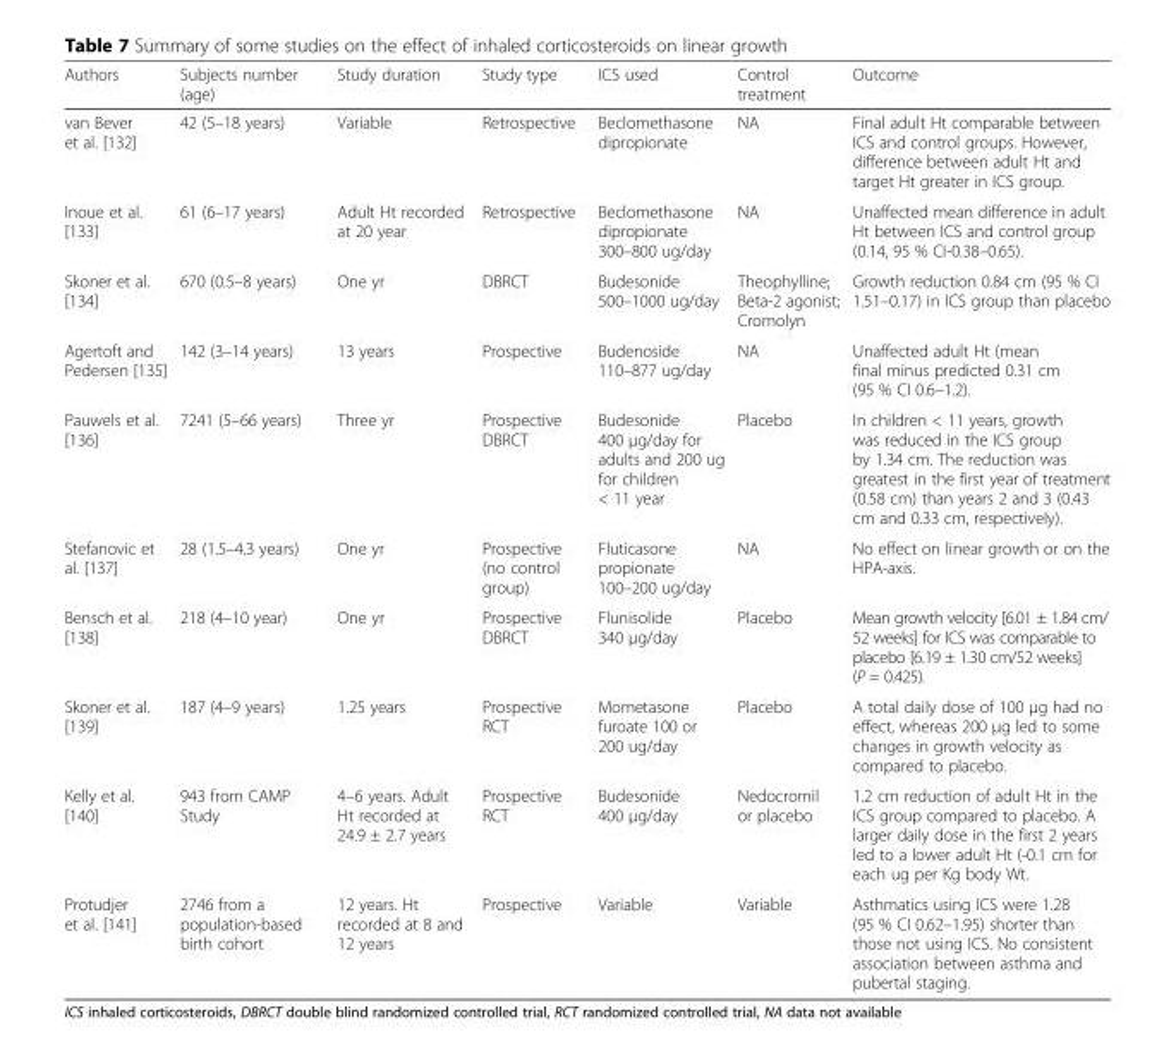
<table><thead><tr><td>Authors</td><td>Subjects number (age)</td><td>Study duration</td><td>Study type</td><td>ICS used</td><td>Control treatment</td><td>Outcome</td></tr></thead><tbody><tr><td>van Bever et al. [132]</td><td>42 (5–18 years)</td><td>Variable</td><td>Retrospective</td><td>Beclomethasone dipropionate</td><td>NA</td><td>Final adult Ht comparable between ICS and control groups. However, difference between adult Ht and target Ht greater in ICS group.</td></tr><tr><td>Inoue et al. [133]</td><td>61 (6–17 years)</td><td>Adult Ht recorded at 20 year</td><td>Retrospective</td><td>Beclomethasone dipropionate 300–800 ug/day</td><td>NA</td><td>Unaffected mean difference in adult Ht between ICS and control group (0.14, 95 % CI-0.38–0.65).</td></tr><tr><td>Skoner et al. [134]</td><td>670 (0.5–8 years)</td><td>One yr</td><td>DBRCT</td><td>Budesonide 500–1000 ug/day</td><td>Theophylline; Beta-2 agonist; Cromolyn</td><td>Growth reduction 0.84 cm (95 % CI 1.51–0.17) in ICS group than placebo</td></tr><tr><td>Agertoft and Pedersen [135]</td><td>142 (3–14 years)</td><td>13 years</td><td>Prospective</td><td>Budenoside 110–877 ug/day</td><td>NA</td><td>Unaffected adult Ht (mean final minus predicted 0.31 cm (95 % CI 0.6–1.2).</td></tr><tr><td>Pauwels et al. [136]</td><td>7241 (5–66 years)</td><td>Three yr</td><td>Prospective DBRCT</td><td>Budesonide 400 μg/day for adults and 200 ug for children &lt; 11 year</td><td>Placebo</td><td>In children &lt; 11 years, growth was reduced in the ICS group by 1.34 cm. The reduction was greatest in the first year of treatment (0.58 cm) than years 2 and 3 (0.43 cm and 0.33 cm, respectively).</td></tr><tr><td>Stefanovic et al. [137]</td><td>28 (1.5–4.3 years)</td><td>One yr</td><td>Prospective (no control group)</td><td>Fluticasone propionate 100–200 ug/day</td><td>NA</td><td>No effect on linear growth or on the HPA-axis.</td></tr><tr><td>Bensch et al. [138]</td><td>218 (4–10 year)</td><td>One yr</td><td>Prospective DBRCT</td><td>Flunisolide 340 μg/day</td><td>Placebo</td><td>Mean growth velocity [6.01 ± 1.84 cm/ 52 weeks] for ICS was comparable to placebo [6.19 ± 1.30 cm/52 weeks] (P = 0.425).</td></tr><tr><td>Skoner et al. [139]</td><td>187 (4–9 years)</td><td>1.25 years</td><td>Prospective RCT</td><td>Mometasone furoate 100 or 200 ug/day</td><td>Placebo</td><td>A total daily dose of 100 μg had no effect, whereas 200 μg led to some changes in growth velocity as compared to placebo.</td></tr><tr><td>Kelly et al. [140]</td><td>943 from CAMP Study</td><td>4–6 years. Adult Ht recorded at 24.9 ± 2.7 years</td><td>Prospective RCT</td><td>Budesonide 400 μg/day</td><td>Nedocromil or placebo</td><td>1.2 cm reduction of adult Ht in the ICS group compared to placebo. A larger daily dose in the first 2 years led to a lower adult Ht (-0.1 cm for each ug per Kg body Wt.</td></tr><tr><td>Protudjer et al. [141]</td><td>2746 from a population-based birth cohort</td><td>12 years. Ht recorded at 8 and 12 years</td><td>Prospective</td><td>Variable</td><td>Variable</td><td>Asthmatics using ICS were 1.28 (95 % CI 0.62–1.95) shorter than those not using ICS. No consistent association between asthma and pubertal staging.</td></tr></tbody></table>